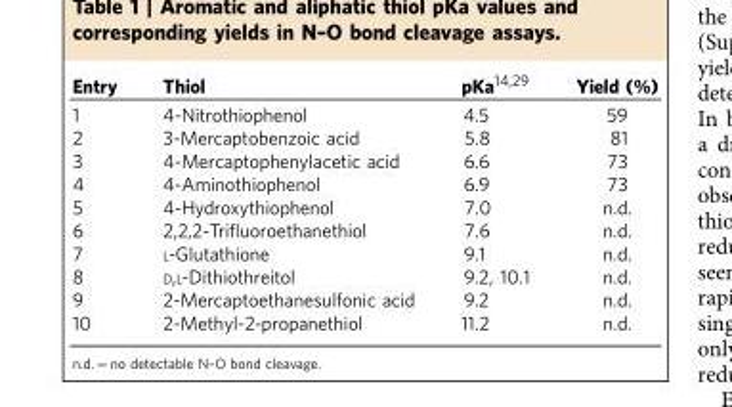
<table><thead><tr><td>Entry</td><td>Thiol</td><td>pKa<sup>14</sup>,<sup>29</sup></td><td>Yield (%)</td></tr></thead><tbody><tr><td>1</td><td>4-Nitrothiophenol</td><td>4.5</td><td>59</td></tr><tr><td>2</td><td>3-Mercaptobenzoic acid</td><td>5.8</td><td>81</td></tr><tr><td>3</td><td>4-Mercaptophenylacetic acid</td><td>6.6</td><td>73</td></tr><tr><td>4</td><td>4-Aminothiophenol</td><td>6.9</td><td>73</td></tr><tr><td>5</td><td>4-Hydroxythiophenol</td><td>7.0</td><td>n.d.</td></tr><tr><td>6</td><td>2,2,2-Trifluoroethanethiol</td><td>7.6</td><td>n.d.</td></tr><tr><td>7</td><td>L-Glutathione</td><td>9.1</td><td>n.d.</td></tr><tr><td>8</td><td>D,L-Dithiothreitol</td><td>9.2, 10.1</td><td>n.d.</td></tr><tr><td>9</td><td>2-Mercaptoethanesulfonic acid</td><td>9.2</td><td>n.d.</td></tr><tr><td>10</td><td>2-Methyl-2-propanethiol</td><td>11.2</td><td>n.d.</td></tr></tbody></table>